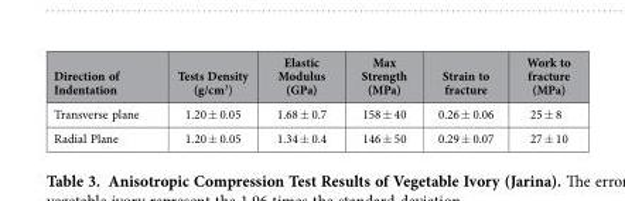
<table><thead><tr><td>Direction of Indentation</td><td>Tests Density (g/cm<sup>3</sup>)</td><td>Elastic Modulus (GPa)</td><td>Max Strength (MPa)</td><td>Strain to fracture</td><td>Work to fracture (MPa)</td></tr></thead><tbody><tr><td>Transverse plane</td><td>1.20 ± 0.05</td><td>1.68 ± 0.7</td><td>158 ± 40</td><td>0.26 ± 0.06</td><td>25 ± 8</td></tr><tr><td>Radial Plane</td><td>1.20 ± 0.05</td><td>1.34 ± 0.4</td><td>146 ± 50</td><td>0.29 ± 0.07</td><td>27 ± 10</td></tr></tbody></table>